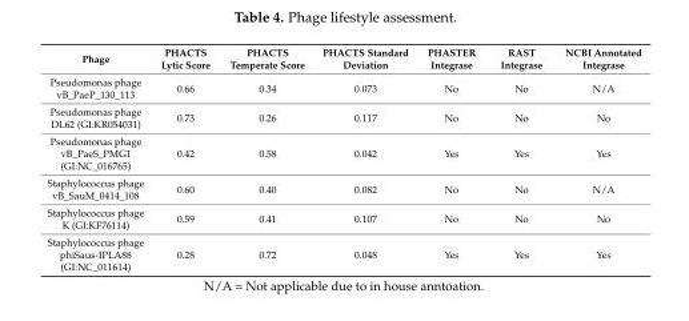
<table><thead><tr><td>Phage</td><td>PHACTS Lytic Score</td><td>PHACTS Temperate Score</td><td>PHACTS Standard Deviation</td><td>PHASTER Integrase</td><td>RAST Integrase</td><td>NCBI Annotated Integrase</td></tr></thead><tbody><tr><td>Pseudomonas phage vB_PaeP_130_113</td><td>0.66</td><td>0.34</td><td>0.073</td><td>No</td><td>No</td><td>N/A</td></tr><tr><td>Pseudomonas phage DL62 (GI:KR054031)</td><td>0.73</td><td>0.26</td><td>0.117</td><td>No</td><td>No</td><td>No</td></tr><tr><td>Pseudomonas phage vB_PaeS_PMG1 (GI:NC_016765)</td><td>0.42</td><td>0.58</td><td>0.042</td><td>Yes</td><td>Yes</td><td>Yes</td></tr><tr><td>Staphylococcus phage vB_SauM_0414_108</td><td>0.60</td><td>0.40</td><td>0.082</td><td>No</td><td>No</td><td>N/A</td></tr><tr><td>Staphylococcus phage K (GI:KF76114)</td><td>0.59</td><td>0.41</td><td>0.107</td><td>No</td><td>No</td><td>No</td></tr><tr><td>Staphylococcus phage phiSaus-IPLA88 (GI:NC_011614)</td><td>0.28</td><td>0.72</td><td>0.048</td><td>Yes</td><td>Yes</td><td>Yes</td></tr></tbody></table>